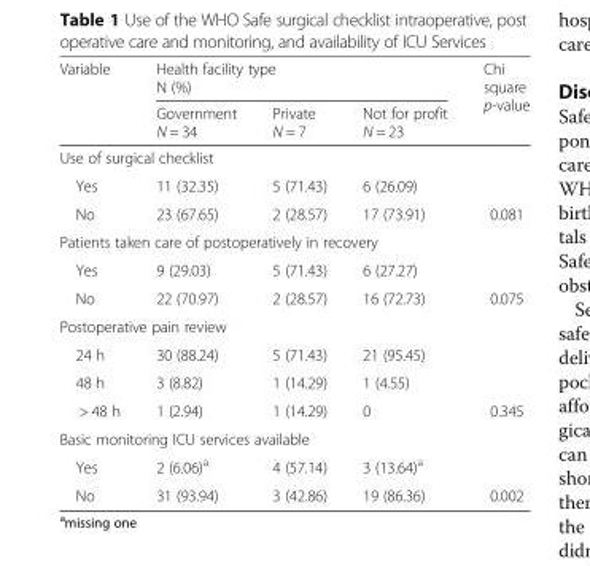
<table><thead><tr><td rowspan="2">Variable</td><td colspan="3">Health facility type N (%)</td><td rowspan="2">Chi square p-value</td></tr><tr><td>Government N = 34</td><td>Private N = 7</td><td>Not for profit N = 23</td></tr></thead><tbody><tr><td colspan="5">Use of surgical checklist</td></tr><tr><td>Yes</td><td>11 (32.35)</td><td>5 (71.43)</td><td>6 (26.09)</td><td></td></tr><tr><td>No</td><td>23 (67.65)</td><td>2 (28.57)</td><td>17 (73.91)</td><td>0.081</td></tr><tr><td colspan="5">Patients taken care of postoperatively in recovery</td></tr><tr><td>Yes</td><td>9 (29.03)</td><td>5 (71.43)</td><td>6 (27.27)</td><td></td></tr><tr><td>No</td><td>22 (70.97)</td><td>2 (28.57)</td><td>16 (72.73)</td><td>0.075</td></tr><tr><td colspan="5">Postoperative pain review</td></tr><tr><td>24 h</td><td>30 (88.24)</td><td>5 (71.43)</td><td>21 (95.45)</td><td></td></tr><tr><td>48 h</td><td>3 (8.82)</td><td>1 (14.29)</td><td>1 (4.55)</td><td></td></tr><tr><td>&gt; 48 h</td><td>1 (2.94)</td><td>1 (14.29)</td><td>0</td><td>0.345</td></tr><tr><td colspan="5">Basic monitoring ICU services available</td></tr><tr><td>Yes</td><td>2 (6.06)<sup>a</sup></td><td>4 (57.14)</td><td>3 (13.64)<sup>a</sup></td><td></td></tr><tr><td>No</td><td>31 (93.94)</td><td>3 (42.86)</td><td>19 (86.36)</td><td>0.002</td></tr></tbody></table>